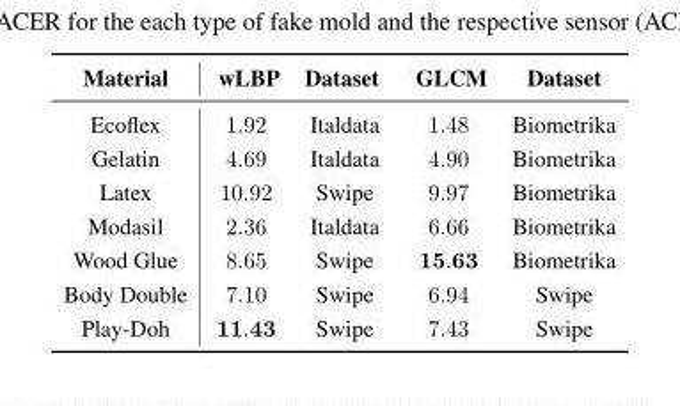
<table><thead><tr><td>Material</td><td>wLBP</td><td>Dataset</td><td>GLCM</td><td>Dataset</td></tr></thead><tbody><tr><td>Ecoflex</td><td>1.92</td><td>Italdata</td><td>1.48</td><td>Biometrika</td></tr><tr><td>Gelatin</td><td>4.69</td><td>Italdata</td><td>4.90</td><td>Biometrika</td></tr><tr><td>Latex</td><td>10.92</td><td>Swipe</td><td>9.97</td><td>Biometrika</td></tr><tr><td>Modasil</td><td>2.36</td><td>Italdata</td><td>6.66</td><td>Biometrika</td></tr><tr><td>Wood Glue</td><td>8.65</td><td>Swipe</td><td>15.63</td><td>Biometrika</td></tr><tr><td>Body Double</td><td>7.10</td><td>Swipe</td><td>6.94</td><td>Swipe</td></tr><tr><td>Play-Doh</td><td>11.43</td><td>Swipe</td><td>7.43</td><td>Swipe</td></tr></tbody></table>